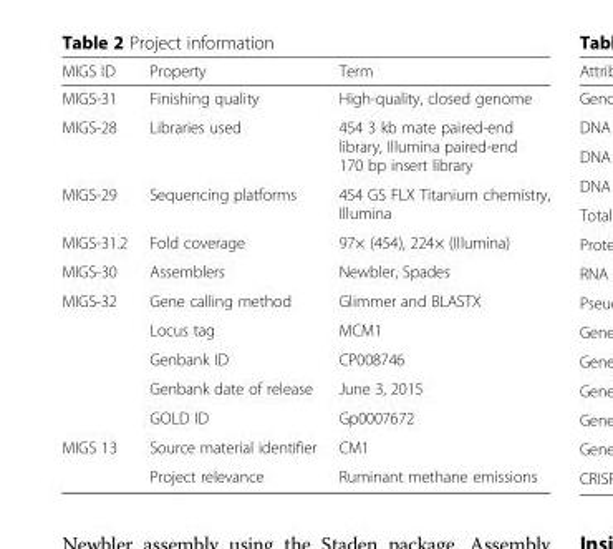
<table><thead><tr><td>MIGS ID</td><td>Property</td><td>Term</td></tr></thead><tbody><tr><td>MIGS-31</td><td>Finishing quality</td><td>High-quality, closed genome</td></tr><tr><td>MIGS-28</td><td>Libraries used</td><td>454 3 kb mate paired-end library, Illumina paired-end 170 bp insert library</td></tr><tr><td>MIGS-29</td><td>Sequencing platforms</td><td>454 GS FLX Titanium chemistry, Illumina</td></tr><tr><td>MIGS-31.2</td><td>Fold coverage</td><td>97× (454), 224× (Illumina)</td></tr><tr><td>MIGS-30</td><td>Assemblers</td><td>Newbler, Spades</td></tr><tr><td rowspan="5">MIGS-32</td><td>Gene calling method</td><td>Glimmer and BLASTX</td></tr><tr><td>Locus tag</td><td>MCM1</td></tr><tr><td>Genbank ID</td><td>CP008746</td></tr><tr><td>Genbank date of release</td><td>June 3, 2015</td></tr><tr><td>GOLD ID</td><td>Gp0007672</td></tr><tr><td rowspan="2">MIGS 13</td><td>Source material identifier</td><td>CM1</td></tr><tr><td>Project relevance</td><td>Ruminant methane emissions</td></tr></tbody></table>